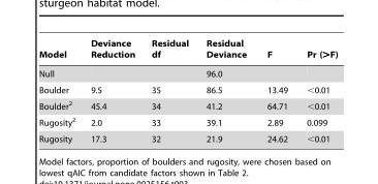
<table><thead><tr><td>Model</td><td>Deviance Reduction</td><td>Residual df</td><td>Residual Deviance</td><td>F</td><td>Pr (&gt;F)</td></tr></thead><tbody><tr><td>Null</td><td></td><td></td><td>96.0</td><td></td><td></td></tr><tr><td>Boulder</td><td>9.5</td><td>35</td><td>86.5</td><td>13.49</td><td>&lt;0.01</td></tr><tr><td>Boulder<sup>2</sup></td><td>45.4</td><td>34</td><td>41.2</td><td>64.71</td><td>&lt;0.01</td></tr><tr><td>Rugosity<sup>2</sup></td><td>2.0</td><td>33</td><td>39.1</td><td>2.89</td><td>0.099</td></tr><tr><td>Rugosity</td><td>17.3</td><td>32</td><td>21.9</td><td>24.62</td><td>&lt;0.01</td></tr></tbody></table>